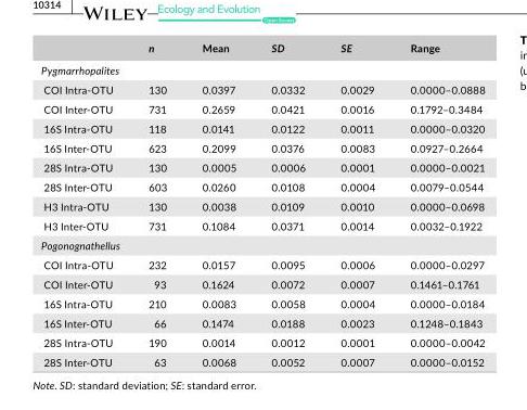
<table><thead><tr><td></td><td>n</td><td>Mean</td><td>SD</td><td>SE</td><td>Range</td></tr></thead><tbody><tr><td colspan="6">Pygmarrhopalites</td></tr><tr><td>COI Intra- OTU</td><td>130</td><td>0.0397</td><td>0.0332</td><td>0.0029</td><td>0.0000–0.0888</td></tr><tr><td>COI Inter- OTU</td><td>731</td><td>0.2659</td><td>0.0421</td><td>0.0016</td><td>0.1792–0.3484</td></tr><tr><td>16S Intra- OTU</td><td>118</td><td>0.0141</td><td>0.0122</td><td>0.0011</td><td>0.0000–0.0320</td></tr><tr><td>16S Inter- OTU</td><td>623</td><td>0.2099</td><td>0.0376</td><td>0.0083</td><td>0.0927–0.2664</td></tr><tr><td>28S Intra- OTU</td><td>130</td><td>0.0005</td><td>0.0006</td><td>0.0001</td><td>0.0000–0.0021</td></tr><tr><td>28S Inter- OTU</td><td>603</td><td>0.0260</td><td>0.0108</td><td>0.0004</td><td>0.0079–0.0544</td></tr><tr><td>H3 Intra- OTU</td><td>130</td><td>0.0038</td><td>0.0109</td><td>0.0010</td><td>0.0000–0.0698</td></tr><tr><td>H3 Inter- OTU</td><td>731</td><td>0.1084</td><td>0.0371</td><td>0.0014</td><td>0.0032–0.1922</td></tr><tr><td colspan="6">Pogonognathellus</td></tr><tr><td>COI Intra- OTU</td><td>232</td><td>0.0157</td><td>0.0095</td><td>0.0006</td><td>0.0000–0.0297</td></tr><tr><td>COI Inter- OTU</td><td>93</td><td>0.1624</td><td>0.0072</td><td>0.0007</td><td>0.1461–0.1761</td></tr><tr><td>16S Intra- OTU</td><td>210</td><td>0.0083</td><td>0.0058</td><td>0.0004</td><td>0.0000–0.0184</td></tr><tr><td>16S Inter- OTU</td><td>66</td><td>0.1474</td><td>0.0188</td><td>0.0023</td><td>0.1248–0.1843</td></tr><tr><td>28S Intra- OTU</td><td>190</td><td>0.0014</td><td>0.0012</td><td>0.0001</td><td>0.0000–0.0042</td></tr><tr><td>28S Inter- OTU</td><td>63</td><td>0.0068</td><td>0.0052</td><td>0.0007</td><td>0.0000–0.0152</td></tr></tbody></table>